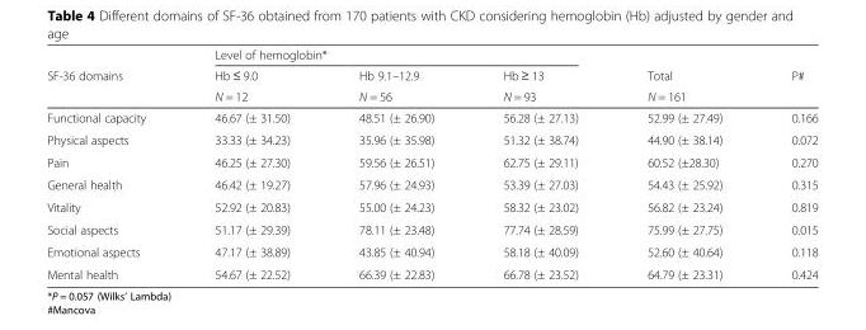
<table><thead><tr><td rowspan="3">SF-36 domains</td><td colspan="3">Level of hemoglobin*</td><td rowspan="3">Total N = 161</td><td rowspan="3">P#</td></tr><tr><td rowspan="2">Hb ≤ 9.0 N = 12</td><td rowspan="2">Hb 9.1–12.9 N = 56</td><td rowspan="2">Hb ≥ 13 N = 93</td></tr><tr></tr></thead><tbody><tr><td>Functional capacity</td><td>46.67 (± 31.50)</td><td>48.51 (± 26.90)</td><td>56.28 (± 27.13)</td><td>52.99 (± 27.49)</td><td>0.166</td></tr><tr><td>Physical aspects</td><td>33.33 (± 34.23)</td><td>35.96 (± 35.98)</td><td>51.32 (± 38.74)</td><td>44.90 (± 38.14)</td><td>0.072</td></tr><tr><td>Pain</td><td>46.25 (± 27.30)</td><td>59.56 (± 26.51)</td><td>62.75 (± 29.11)</td><td>60.52 (±28.30)</td><td>0.270</td></tr><tr><td>General health</td><td>46.42 (± 19.27)</td><td>57.96 (± 24.93)</td><td>53.39 (± 27.03)</td><td>54.43 (± 25.92)</td><td>0.315</td></tr><tr><td>Vitality</td><td>52.92 (± 20.83)</td><td>55.00 (± 24.23)</td><td>58.32 (± 23.02)</td><td>56.82 (± 23.24)</td><td>0.819</td></tr><tr><td>Social aspects</td><td>51.17 (± 29.39)</td><td>78.11 (± 23.48)</td><td>77.74 (± 28.59)</td><td>75.99 (± 27.75)</td><td>0.015</td></tr><tr><td>Emotional aspects</td><td>47.17 (± 38.89)</td><td>43.85 (± 40.94)</td><td>58.18 (± 40.09)</td><td>52.60 (± 40.64)</td><td>0.118</td></tr><tr><td>Mental health</td><td>54.67 (± 22.52)</td><td>66.39 (± 22.83)</td><td>66.78 (± 23.52)</td><td>64.79 (± 23.31)</td><td>0.424</td></tr></tbody></table>